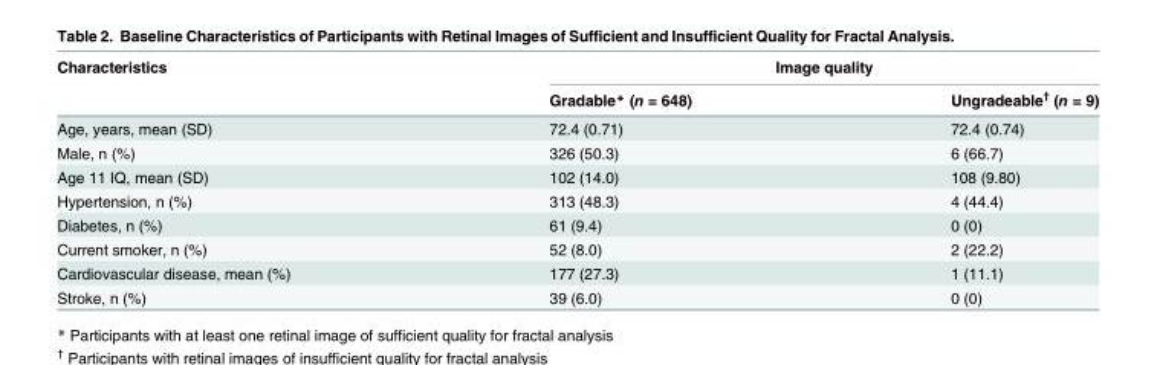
<table><thead><tr><td rowspan="2">Characteristics</td><td colspan="2">Image quality</td></tr><tr><td>Gradable* (n = 648)</td><td>Ungradeable<sup>†</sup> (n = 9)</td></tr></thead><tbody><tr><td>Age, years, mean (SD)</td><td>72.4 (0.71)</td><td>72.4 (0.74)</td></tr><tr><td>Male, n (%)</td><td>326 (50.3)</td><td>6 (66.7)</td></tr><tr><td>Age 11 IQ, mean (SD)</td><td>102 (14.0)</td><td>108 (9.80)</td></tr><tr><td>Hypertension, n (%)</td><td>313 (48.3)</td><td>4 (44.4)</td></tr><tr><td>Diabetes, n (%)</td><td>61 (9.4)</td><td>0 (0)</td></tr><tr><td>Current smoker, n (%)</td><td>52 (8.0)</td><td>2 (22.2)</td></tr><tr><td>Cardiovascular disease, mean (%)</td><td>177 (27.3)</td><td>1 (11.1)</td></tr><tr><td>Stroke, n (%)</td><td>39 (6.0)</td><td>0 (0)</td></tr></tbody></table>